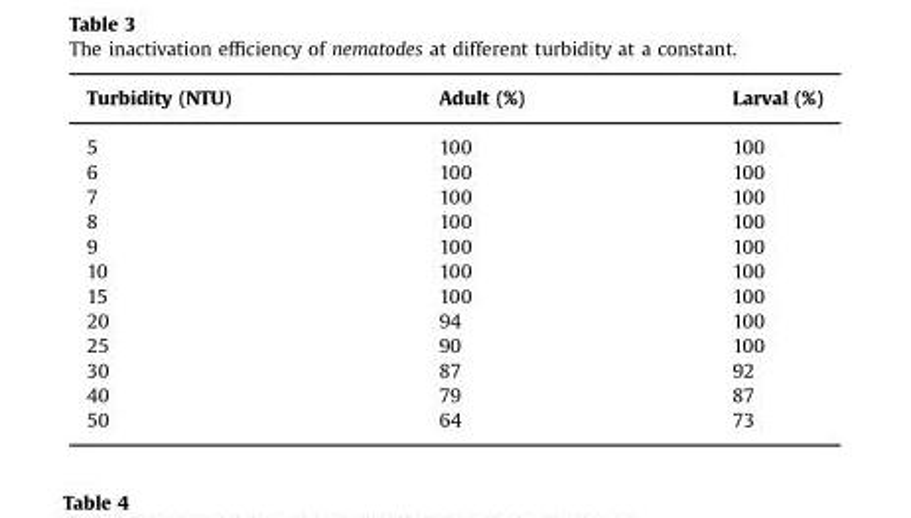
<table><thead><tr><td>Turbidity (NTU)</td><td>Adult (%)</td><td>Larval (%)</td></tr></thead><tbody><tr><td>5</td><td>100</td><td>100</td></tr><tr><td>6</td><td>100</td><td>100</td></tr><tr><td>7</td><td>100</td><td>100</td></tr><tr><td>8</td><td>100</td><td>100</td></tr><tr><td>9</td><td>100</td><td>100</td></tr><tr><td>10</td><td>100</td><td>100</td></tr><tr><td>15</td><td>100</td><td>100</td></tr><tr><td>20</td><td>94</td><td>100</td></tr><tr><td>25</td><td>90</td><td>100</td></tr><tr><td>30</td><td>87</td><td>92</td></tr><tr><td>40</td><td>79</td><td>87</td></tr><tr><td>50</td><td>64</td><td>73</td></tr></tbody></table>